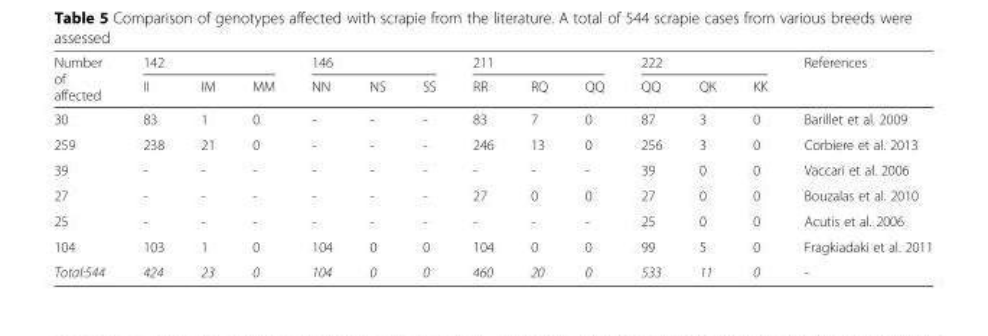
<table><thead><tr><td rowspan="2">Number of affected</td><td colspan="3">142</td><td colspan="3">146</td><td colspan="3">211</td><td colspan="3">222</td><td rowspan="2">References</td></tr><tr><td>II</td><td>IM</td><td>MM</td><td>NN</td><td>NS</td><td>SS</td><td>RR</td><td>RQ</td><td>QQ</td><td>QQ</td><td>QK</td><td>KK</td></tr></thead><tbody><tr><td>30</td><td>83</td><td>1</td><td>0</td><td>-</td><td>-</td><td>-</td><td>83</td><td>7</td><td>0</td><td>87</td><td>3</td><td>0</td><td>Barillet et al. 2009</td></tr><tr><td>259</td><td>238</td><td>21</td><td>0</td><td>-</td><td>-</td><td>-</td><td>246</td><td>13</td><td>0</td><td>256</td><td>3</td><td>0</td><td>Corbiere et al. 2013</td></tr><tr><td>39</td><td>-</td><td>-</td><td>-</td><td>-</td><td>-</td><td>-</td><td>-</td><td>-</td><td>-</td><td>39</td><td>0</td><td>0</td><td>Vaccari et al. 2006</td></tr><tr><td>27</td><td>-</td><td>-</td><td>-</td><td>-</td><td>-</td><td>-</td><td>27</td><td>0</td><td>0</td><td>27</td><td>0</td><td>0</td><td>Bouzalas et al. 2010</td></tr><tr><td>25</td><td>-</td><td>-</td><td>-</td><td>-</td><td>-</td><td>-</td><td>-</td><td>-</td><td>-</td><td>25</td><td>0</td><td>0</td><td>Acutis et al. 2006</td></tr><tr><td>104</td><td>103</td><td>1</td><td>0</td><td>104</td><td>0</td><td>0</td><td>104</td><td>0</td><td>0</td><td>99</td><td>5</td><td>0</td><td>Fragkiadaki et al. 2011</td></tr><tr><td>Total:544</td><td>424</td><td>23</td><td>0</td><td>104</td><td>0</td><td>0</td><td>460</td><td>20</td><td>0</td><td>533</td><td>11</td><td>0</td><td>-</td></tr></tbody></table>